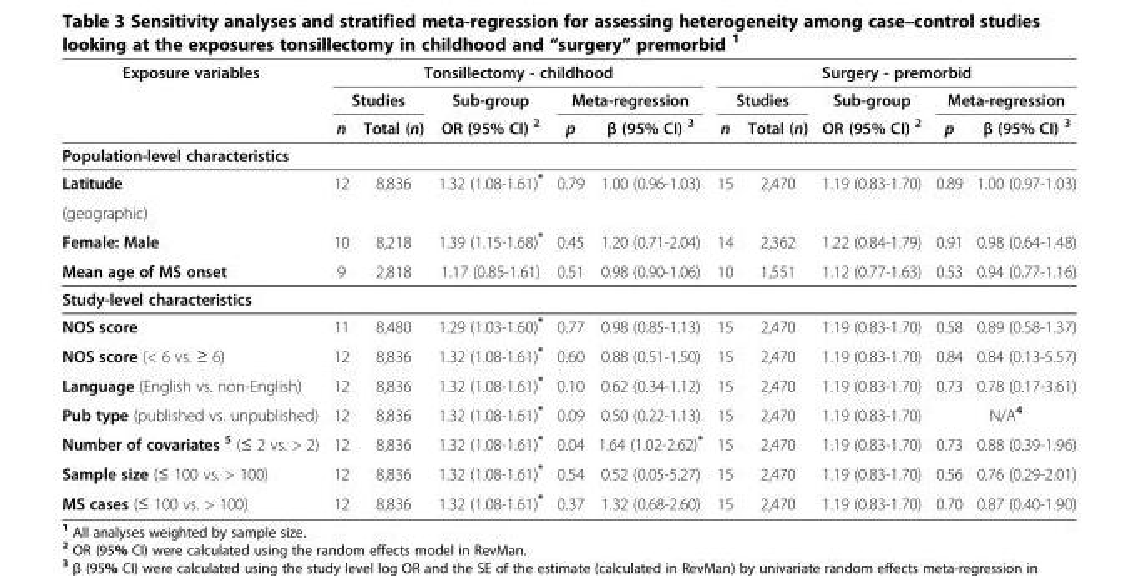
<table><thead><tr><td rowspan="3">Exposure variables</td><td colspan="5">Tonsillectomy - childhood</td><td colspan="5">Surgery - premorbid</td></tr><tr><td colspan="2">Studies</td><td rowspan="2">Sub-group OR (95% CI) <sup>2</sup></td><td colspan="2">Meta-regression</td><td colspan="2">Studies</td><td rowspan="2">Sub-group OR (95% CI) <sup>2</sup></td><td colspan="2">Meta-regression</td></tr><tr><td>n</td><td>Total (n)</td><td>p</td><td>β (95% CI) <sup>3</sup></td><td>n</td><td>Total (n)</td><td>p</td><td>β (95% CI) <sup>3</sup></td></tr></thead><tbody><tr><td colspan="11">Population-level characteristics</td></tr><tr><td>Latitude</td><td rowspan="2">12</td><td rowspan="2">8,836</td><td rowspan="2">1.32 (1.08-1.61)*</td><td rowspan="2">0.79</td><td rowspan="2">1.00 (0.96-1.03)</td><td rowspan="2">15</td><td rowspan="2">2,470</td><td rowspan="2">1.19 (0.83-1.70)</td><td rowspan="2">0.89</td><td rowspan="2">1.00 (0.97-1.03)</td></tr><tr><td>(geographic)</td></tr><tr><td>Female: Male</td><td>10</td><td>8,218</td><td>1.39 (1.15-1.68)*</td><td>0.45</td><td>1.20 (0.71-2.04)</td><td>14</td><td>2,362</td><td>1.22 (0.84-1.79)</td><td>0.91</td><td>0.98 (0.64-1.48)</td></tr><tr><td>Mean age of MS onset</td><td>9</td><td>2,818</td><td>1.17 (0.85-1.61)</td><td>0.51</td><td>0.98 (0.90-1.06)</td><td>10</td><td>1,551</td><td>1.12 (0.77-1.63)</td><td>0.53</td><td>0.94 (0.77-1.16)</td></tr><tr><td colspan="11">Study-level characteristics</td></tr><tr><td>NOS score</td><td>11</td><td>8,480</td><td>1.29 (1.03-1.60)*</td><td>0.77</td><td>0.98 (0.85-1.13)</td><td>15</td><td>2,470</td><td>1.19 (0.83-1.70)</td><td>0.58</td><td>0.89 (0.58-1.37)</td></tr><tr><td>NOS score (&lt; 6 vs. ≥ 6)</td><td>12</td><td>8,836</td><td>1.32 (1.08-1.61)*</td><td>0.60</td><td>0.88 (0.51-1.50)</td><td>15</td><td>2,470</td><td>1.19 (0.83-1.70)</td><td>0.84</td><td>0.84 (0.13-5.57)</td></tr><tr><td>Language (English vs. non-English)</td><td>12</td><td>8,836</td><td>1.32 (1.08-1.61)*</td><td>0.10</td><td>0.62 (0.34-1.12)</td><td>15</td><td>2,470</td><td>1.19 (0.83-1.70)</td><td>0.73</td><td>0.78 (0.17-3.61)</td></tr><tr><td>Pub type (published vs. unpublished)</td><td>12</td><td>8,836</td><td>1.32 (1.08-1.61)*</td><td>0.09</td><td>0.50 (0.22-1.13)</td><td>15</td><td>2,470</td><td>1.19 (0.83-1.70)</td><td colspan="2">N/A<sup>4</sup></td></tr><tr><td>Number of covariates <sup>5</sup> (≤ 2 vs. &gt; 2)</td><td>12</td><td>8,836</td><td>1.32 (1.08-1.61)*</td><td>0.04</td><td>1.64 (1.02-2.62)*</td><td>15</td><td>2,470</td><td>1.19 (0.83-1.70)</td><td>0.73</td><td>0.88 (0.39-1.96)</td></tr><tr><td>Sample size (≤ 100 vs. &gt; 100)</td><td>12</td><td>8,836</td><td>1.32 (1.08-1.61)*</td><td>0.54</td><td>0.52 (0.05-5.27)</td><td>15</td><td>2,470</td><td>1.19 (0.83-1.70)</td><td>0.56</td><td>0.76 (0.29-2.01)</td></tr><tr><td>MS cases (≤ 100 vs. &gt; 100)</td><td>12</td><td>8,836</td><td>1.32 (1.08-1.61)*</td><td>0.37</td><td>1.32 (0.68-2.60)</td><td>15</td><td>2,470</td><td>1.19 (0.83-1.70)</td><td>0.70</td><td>0.87 (0.40-1.90)</td></tr></tbody></table>